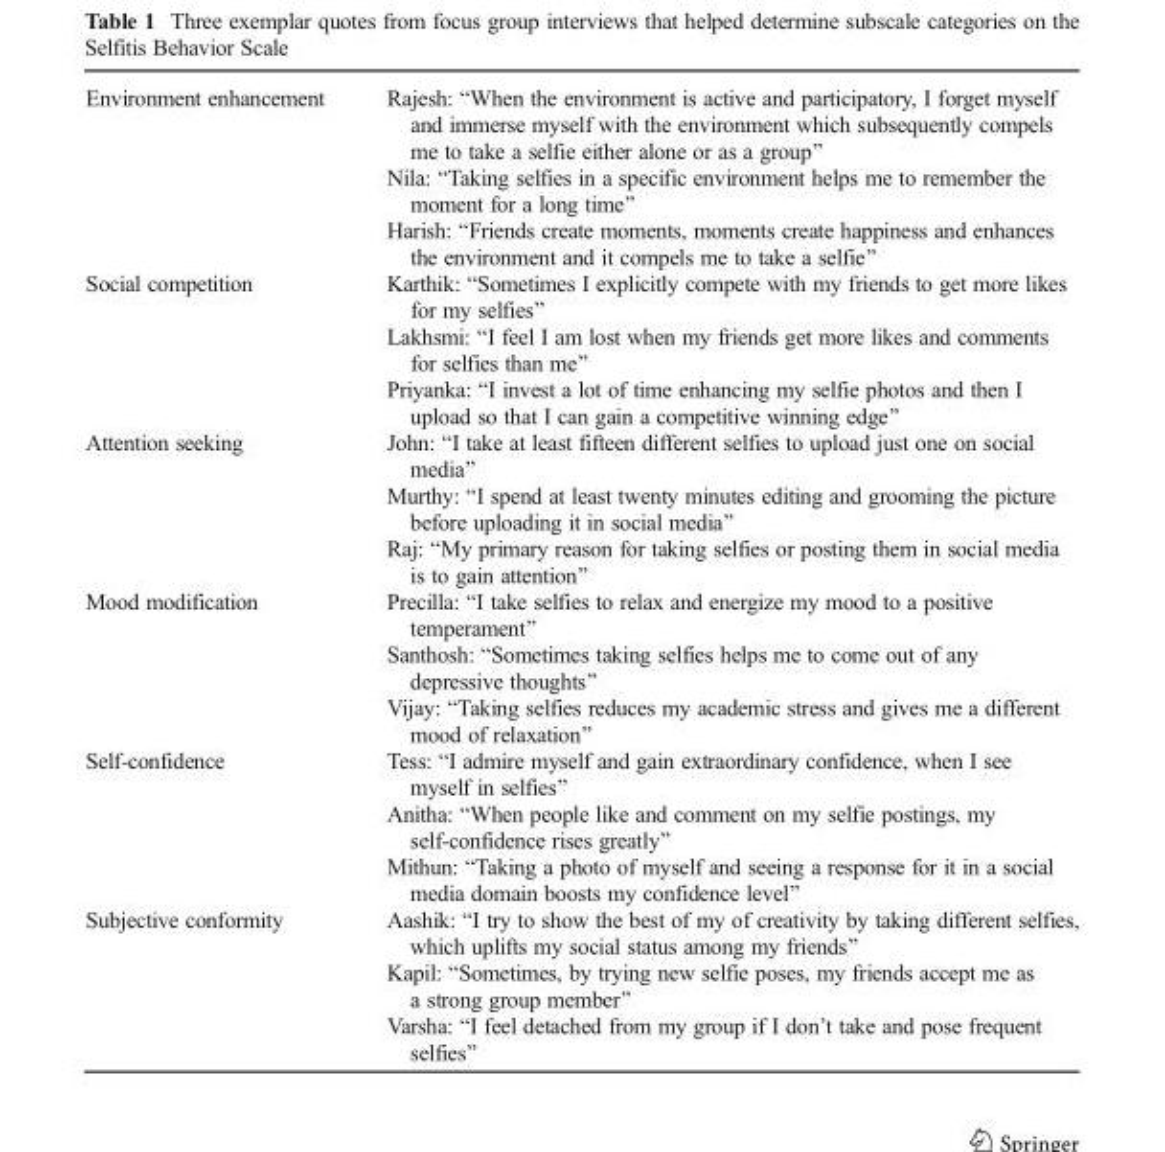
<table><tbody><tr><td>Environment enhancement</td><td>Rajesh: “When the environment is active and participatory, I forget myself and immerse myself with the environment which subsequently compels me to take a selfie either alone or as a group” Nila: “Taking selfies in a specific environment helps me to remember the moment for a long time” Harish: “Friends create moments, moments create happiness and enhances the environment and it compels me to take a selfie”</td></tr><tr><td>Social competition</td><td>Karthik: “Sometimes I explicitly compete with my friends to get more likes for my selfies” Lakhsmi: “I feel I am lost when my friends get more likes and comments for selfies than me” Priyanka: “I invest a lot of time enhancing my selfie photos and then I upload so that I can gain a competitive winning edge”</td></tr><tr><td>Attention seeking</td><td>John: “I take at least fifteen different selfies to upload just one on social media” Murthy: “I spend at least twenty minutes editing and grooming the picture before uploading it in social media” Raj: “My primary reason for taking selfies or posting them in social media is to gain attention”</td></tr><tr><td>Mood modification</td><td>Precilla: “I take selfies to relax and energize my mood to a positive temperament” Santhosh: “Sometimes taking selfies helps me to come out of any depressive thoughts” Vijay: “Taking selfies reduces my academic stress and gives me a different mood of relaxation”</td></tr><tr><td>Self-confidence</td><td>Tess: “I admire myself and gain extraordinary confidence, when I see myself in selfies” Anitha: “When people like and comment on my selfie postings, my self-confidence rises greatly” Mithun: “Taking a photo of myself and seeing a response for it in a social media domain boosts my confidence level”</td></tr><tr><td>Subjective conformity</td><td>Aashik: “I try to show the best of my of creativity by taking different selfies, which uplifts my social status among my friends” Kapil: “Sometimes, by trying new selfie poses, my friends accept me as a strong group member” Varsha: “I feel detached from my group if I don’t take and pose frequent selfies”</td></tr></tbody></table>